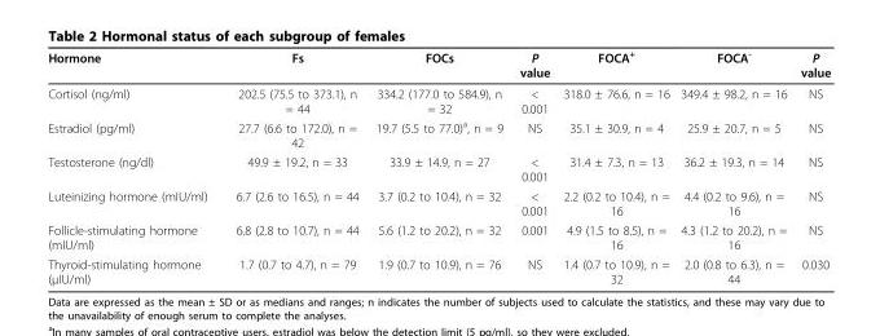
<table><thead><tr><td>Hormone</td><td>Fs</td><td>FOCs</td><td>P value</td><td>FOCA<sup>+</sup></td><td>FOCA<sup>-</sup></td><td>P value</td></tr></thead><tbody><tr><td>Cortisol (ng/ml)</td><td>202.5 (75.5 to 373.1), n = 44</td><td>334.2 (177.0 to 584.9), n = 32</td><td>&lt; 0.001</td><td>318.0 ± 76.6, n = 16</td><td>349.4 ± 98.2, n = 16</td><td>NS</td></tr><tr><td>Estradiol (pg/ml)</td><td>27.7 (6.6 to 172.0), n = 42</td><td>19.7 (5.5 to 77.0)<sup>a</sup>, n = 9</td><td>NS</td><td>35.1 ± 30.9, n = 4</td><td>25.9 ± 20.7, n = 5</td><td>NS</td></tr><tr><td>Testosterone (ng/dl)</td><td>49.9 ± 19.2, n = 33</td><td>33.9 ± 14.9, n = 27</td><td>&lt; 0.001</td><td>31.4 ± 7.3, n = 13</td><td>36.2 ± 19.3, n = 14</td><td>NS</td></tr><tr><td>Luteinizing hormone (mIU/ml)</td><td>6.7 (2.6 to 16.5), n = 44</td><td>3.7 (0.2 to 10.4), n = 32</td><td>&lt; 0.001</td><td>2.2 (0.2 to 10.4), n = 16</td><td>4.4 (0.2 to 9.6), n = 16</td><td>NS</td></tr><tr><td>Follicle-stimulating hormone (mIU/ml)</td><td>6.8 (2.8 to 10.7), n = 44</td><td>5.6 (1.2 to 20.2), n = 32</td><td>0.001</td><td>4.9 (1.5 to 8.5), n = 16</td><td>4.3 (1.2 to 20.2), n = 16</td><td>NS</td></tr><tr><td>Thyroid-stimulating hormone (μIU/ml)</td><td>1.7 (0.7 to 4.7), n = 79</td><td>1.9 (0.7 to 10.9), n = 76</td><td>NS</td><td>1.4 (0.7 to 10.9), n = 32</td><td>2.0 (0.8 to 6.3), n = 44</td><td>0.030</td></tr></tbody></table>